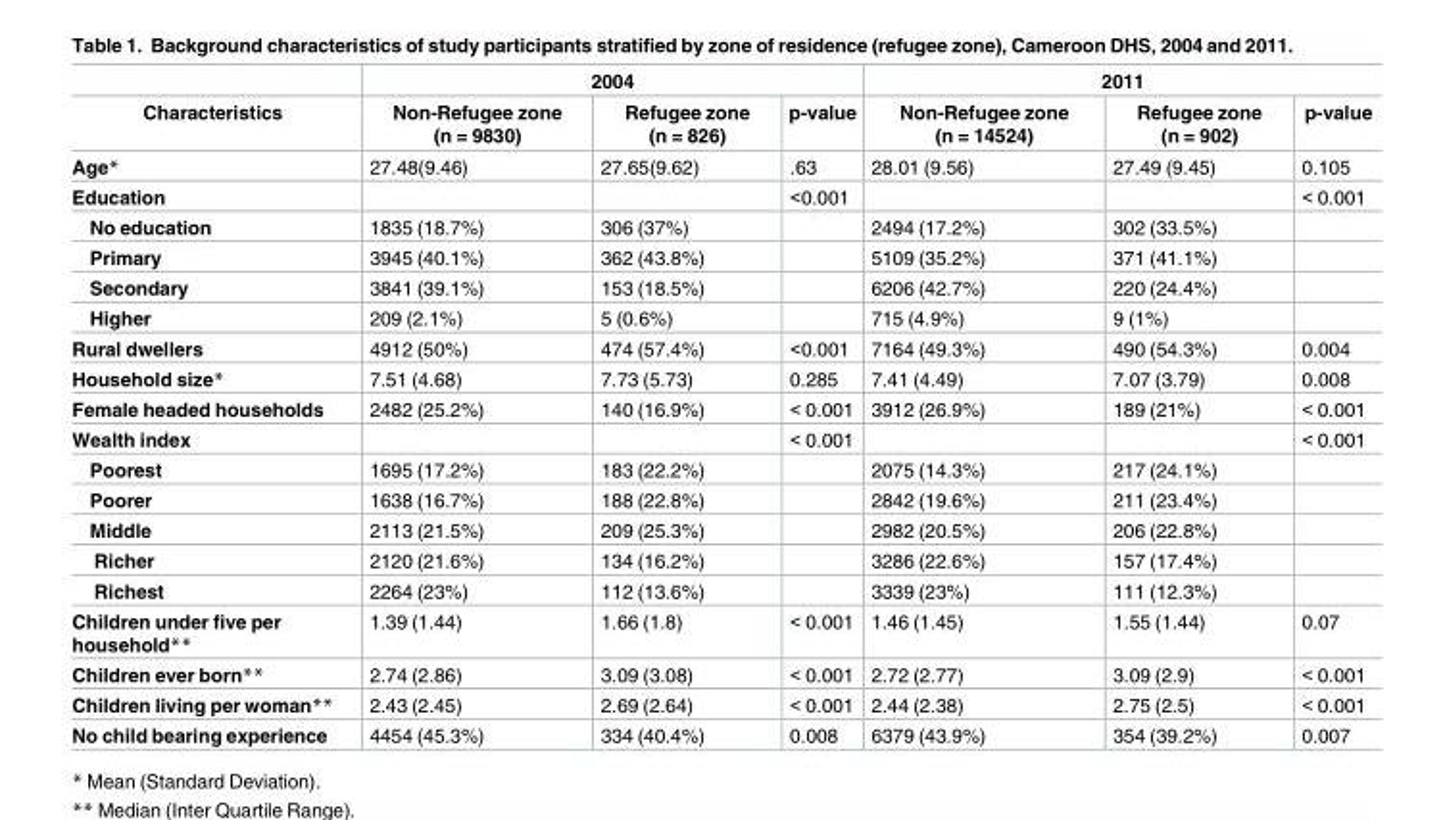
<table><thead><tr><td rowspan="2">Characteristics</td><td colspan="3">2004</td><td colspan="3">2011</td></tr><tr><td>Non-Refugee zone (n = 9830)</td><td>Refugee zone (n = 826)</td><td>p-value</td><td>Non-Refugee zone (n = 14524)</td><td>Refugee zone (n = 902)</td><td>p-value</td></tr></thead><tbody><tr><td>Age*</td><td>27.48(9.46)</td><td>27.65(9.62)</td><td>.63</td><td>28.01 (9.56)</td><td>27.49 (9.45)</td><td>0.105</td></tr><tr><td>Education</td><td></td><td></td><td>&lt;0.001</td><td></td><td></td><td>&lt; 0.001</td></tr><tr><td>No education</td><td>1835 (18.7%)</td><td>306 (37%)</td><td></td><td>2494 (17.2%)</td><td>302 (33.5%)</td><td></td></tr><tr><td>Primary</td><td>3945 (40.1%)</td><td>362 (43.8%)</td><td></td><td>5109 (35.2%)</td><td>371 (41.1%)</td><td></td></tr><tr><td>Secondary</td><td>3841 (39.1%)</td><td>153 (18.5%)</td><td></td><td>6206 (42.7%)</td><td>220 (24.4%)</td><td></td></tr><tr><td>Higher</td><td>209 (2.1%)</td><td>5 (0.6%)</td><td></td><td>715 (4.9%)</td><td>9 (1%)</td><td></td></tr><tr><td>Rural dwellers</td><td>4912 (50%)</td><td>474 (57.4%)</td><td>&lt;0.001</td><td>7164 (49.3%)</td><td>490 (54.3%)</td><td>0.004</td></tr><tr><td>Household size*</td><td>7.51 (4.68)</td><td>7.73 (5.73)</td><td>0.285</td><td>7.41 (4.49)</td><td>7.07 (3.79)</td><td>0.008</td></tr><tr><td>Female headed households</td><td>2482 (25.2%)</td><td>140 (16.9%)</td><td>&lt; 0.001</td><td>3912 (26.9%)</td><td>189 (21%)</td><td>&lt; 0.001</td></tr><tr><td>Wealth index</td><td></td><td></td><td>&lt; 0.001</td><td></td><td></td><td>&lt; 0.001</td></tr><tr><td>Poorest</td><td>1695 (17.2%)</td><td>183 (22.2%)</td><td></td><td>2075 (14.3%)</td><td>217 (24.1%)</td><td></td></tr><tr><td>Poorer</td><td>1638 (16.7%)</td><td>188 (22.8%)</td><td></td><td>2842 (19.6%)</td><td>211 (23.4%)</td><td></td></tr><tr><td>Middle</td><td>2113 (21.5%)</td><td>209 (25.3%)</td><td></td><td>2982 (20.5%)</td><td>206 (22.8%)</td><td></td></tr><tr><td>Richer</td><td>2120 (21.6%)</td><td>134 (16.2%)</td><td></td><td>3286 (22.6%)</td><td>157 (17.4%)</td><td></td></tr><tr><td>Richest</td><td>2264 (23%)</td><td>112 (13.6%)</td><td></td><td>3339 (23%)</td><td>111 (12.3%)</td><td></td></tr><tr><td>Children under five per household**</td><td>1.39 (1.44)</td><td>1.66 (1.8)</td><td>&lt; 0.001</td><td>1.46 (1.45)</td><td>1.55 (1.44)</td><td>0.07</td></tr><tr><td>Children ever born**</td><td>2.74 (2.86)</td><td>3.09 (3.08)</td><td>&lt; 0.001</td><td>2.72 (2.77)</td><td>3.09 (2.9)</td><td>&lt; 0.001</td></tr><tr><td>Children living per woman**</td><td>2.43 (2.45)</td><td>2.69 (2.64)</td><td>&lt; 0.001</td><td>2.44 (2.38)</td><td>2.75 (2.5)</td><td>&lt; 0.001</td></tr><tr><td>No child bearing experience</td><td>4454 (45.3%)</td><td>334 (40.4%)</td><td>0.008</td><td>6379 (43.9%)</td><td>354 (39.2%)</td><td>0.007</td></tr></tbody></table>